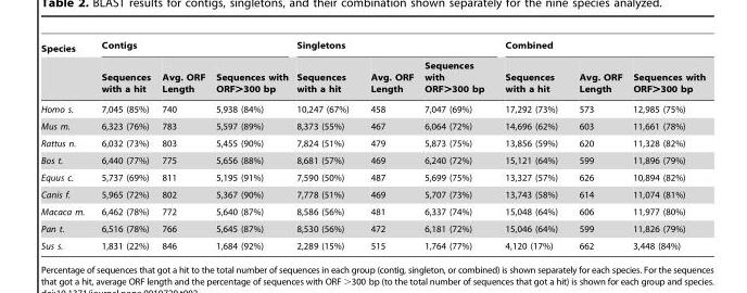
<table><thead><tr><td rowspan="2">Species</td><td colspan="3">Contigs</td><td colspan="3">Singletons</td><td colspan="3">Combined</td></tr><tr><td>Sequences with a hit</td><td>Avg. ORF Length</td><td>Sequences with ORF&gt;300 bp</td><td>Sequences with a hit</td><td>Avg. ORF Length</td><td>Sequences with ORF&gt;300 bp</td><td>Sequences with a hit</td><td>Avg. ORF Length</td><td>Sequences with ORF&gt;300 bp</td></tr></thead><tbody><tr><td>Homo s.</td><td>7,045 (85%)</td><td>740</td><td>5,938 (84%)</td><td>10,247 (67%)</td><td>458</td><td>7,047 (69%)</td><td>17,292 (73%)</td><td>573</td><td>12,985 (75%)</td></tr><tr><td>Mus m.</td><td>6,323 (76%)</td><td>783</td><td>5,597 (89%)</td><td>8,373 (55%)</td><td>467</td><td>6,064 (72%)</td><td>14,696 (62%)</td><td>603</td><td>11,661 (78%)</td></tr><tr><td>Rattus n.</td><td>6,032 (73%)</td><td>803</td><td>5,455 (90%)</td><td>7,824 (51%)</td><td>479</td><td>5,873 (75%)</td><td>13,856 (59%)</td><td>620</td><td>11,328 (82%)</td></tr><tr><td>Bos t.</td><td>6,440 (77%)</td><td>775</td><td>5,656 (88%)</td><td>8,681 (57%)</td><td>469</td><td>6,240 (72%)</td><td>15,121 (64%)</td><td>599</td><td>11,896 (79%)</td></tr><tr><td>Equus c.</td><td>5,737 (69%)</td><td>811</td><td>5,195 (91%)</td><td>7,590 (50%)</td><td>487</td><td>5,699 (75%)</td><td>13,327 (57%)</td><td>626</td><td>10,894 (82%)</td></tr><tr><td>Canis f.</td><td>5,965 (72%)</td><td>802</td><td>5,367 (90%)</td><td>7,778 (51%)</td><td>469</td><td>5,707 (73%)</td><td>13,743 (58%)</td><td>614</td><td>11,074 (81%)</td></tr><tr><td>Macaca m.</td><td>6,462 (78%)</td><td>772</td><td>5,640 (87%)</td><td>8,586 (56%)</td><td>481</td><td>6,337 (74%)</td><td>15,048 (64%)</td><td>606</td><td>11,977 (80%)</td></tr><tr><td>Pan t.</td><td>6,516 (78%)</td><td>766</td><td>5,645 (87%)</td><td>8,530 (56%)</td><td>472</td><td>6,181 (72%)</td><td>15,046 (64%)</td><td>599</td><td>11,826 (79%)</td></tr><tr><td>Sus s.</td><td>1,831 (22%)</td><td>846</td><td>1,684 (92%)</td><td>2,289 (15%)</td><td>515</td><td>1,764 (77%)</td><td>4,120 (17%)</td><td>662</td><td>3,448 (84%)</td></tr></tbody></table>